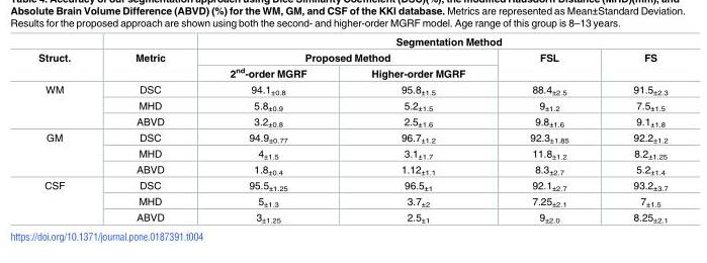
<table><thead><tr><td rowspan="3">Struct.</td><td rowspan="3">Metric</td><td colspan="4">Segmentation Method</td></tr><tr><td colspan="2">Proposed Method</td><td rowspan="2">FSL</td><td rowspan="2">FS</td></tr><tr><td>2<sup>nd</sup>-order MGRF</td><td>Higher-order MGRF</td></tr></thead><tbody><tr><td rowspan="3">WM</td><td>DSC</td><td>94.1<sub>±0.8</sub></td><td>95.8<sub>±1.5</sub></td><td>88.4<sub>±2.5</sub></td><td>91.5<sub>±2.3</sub></td></tr><tr><td>MHD</td><td>5.8<sub>±0.9</sub></td><td>5.2<sub>±1.5</sub></td><td>9<sub>±1.2</sub></td><td>7.5<sub>±1.5</sub></td></tr><tr><td>ABVD</td><td>3.2<sub>±0.8</sub></td><td>2.5<sub>±1.6</sub></td><td>9.8<sub>±1.6</sub></td><td>9.1<sub>±1.8</sub></td></tr><tr><td rowspan="3">GM</td><td>DSC</td><td>94.9<sub>±0.77</sub></td><td>96.7<sub>±1.2</sub></td><td>92.3<sub>±1.85</sub></td><td>92.2<sub>±1.2</sub></td></tr><tr><td>MHD</td><td>4<sub>±1.5</sub></td><td>3.1<sub>±1.7</sub></td><td>11.8<sub>±1.2</sub></td><td>8.2<sub>±1.25</sub></td></tr><tr><td>ABVD</td><td>1.8<sub>±0.4</sub></td><td>1.12<sub>±1.1</sub></td><td>8.3<sub>±2.7</sub></td><td>5.2<sub>±1.4</sub></td></tr><tr><td rowspan="3">CSF</td><td>DSC</td><td>95.5<sub>±1.25</sub></td><td>96.5<sub>±1</sub></td><td>92.1<sub>±2.7</sub></td><td>93.2<sub>±3.7</sub></td></tr><tr><td>MHD</td><td>5<sub>±1.3</sub></td><td>3.7<sub>±2</sub></td><td>7.25<sub>±2.1</sub></td><td>7<sub>±1.5</sub></td></tr><tr><td>ABVD</td><td>3<sub>±1.25</sub></td><td>2.5<sub>±1</sub></td><td>9<sub>±2.0</sub></td><td>8.25<sub>±2.1</sub></td></tr></tbody></table>